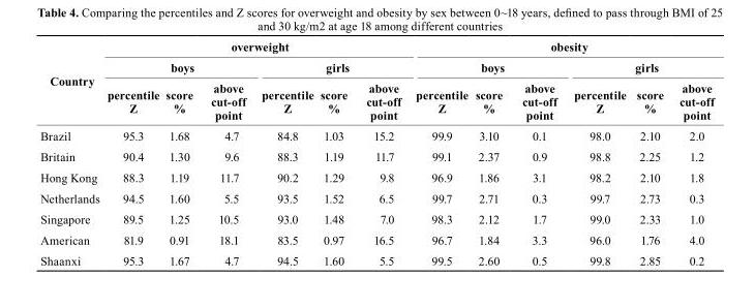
<table><thead><tr><td rowspan="3">country</td><td colspan="6">overweight</td><td colspan="6">obesity</td></tr><tr><td colspan="3">boys</td><td colspan="3">girls</td><td colspan="3">boys</td><td colspan="3">girls</td></tr><tr><td>percentile Z</td><td>score %</td><td>above cut-off point</td><td>percentile Z</td><td>score %</td><td>above cut-off point</td><td>percentile Z</td><td>score %</td><td>above cut-off point</td><td>percentile Z</td><td>score %</td><td>above cut-off point</td></tr></thead><tbody><tr><td>Brazil</td><td>95.3</td><td>1.68</td><td>4.7</td><td>84.8</td><td>1.03</td><td>15.2</td><td>99.9</td><td>3.10</td><td>0.1</td><td>98.0</td><td>2.10</td><td>2.0</td></tr><tr><td>Britain</td><td>90.4</td><td>1.30</td><td>9.6</td><td>88.3</td><td>1.19</td><td>11.7</td><td>99.1</td><td>2.37</td><td>0.9</td><td>98.8</td><td>2.25</td><td>1.2</td></tr><tr><td>Hong Kong</td><td>88.3</td><td>1.19</td><td>11.7</td><td>90.2</td><td>1.29</td><td>9.8</td><td>96.9</td><td>1.86</td><td>3.1</td><td>98.2</td><td>2.10</td><td>1.8</td></tr><tr><td>Netherlands</td><td>94.5</td><td>1.60</td><td>5.5</td><td>93.5</td><td>1.52</td><td>6.5</td><td>99.7</td><td>2.71</td><td>0.3</td><td>99.7</td><td>2.73</td><td>0.3</td></tr><tr><td>Singapore</td><td>89.5</td><td>1.25</td><td>10.5</td><td>93.0</td><td>1.48</td><td>7.0</td><td>98.3</td><td>2.12</td><td>1.7</td><td>99.0</td><td>2.33</td><td>1.0</td></tr><tr><td>American</td><td>81.9</td><td>0.91</td><td>18.1</td><td>83.5</td><td>0.97</td><td>16.5</td><td>96.7</td><td>1.84</td><td>3.3</td><td>96.0</td><td>1.76</td><td>4.0</td></tr><tr><td>Shaanxi</td><td>95.3</td><td>1.67</td><td>4.7</td><td>94.5</td><td>1.60</td><td>5.5</td><td>99.5</td><td>2.60</td><td>0.5</td><td>99.8</td><td>2.85</td><td>0.2</td></tr></tbody></table>